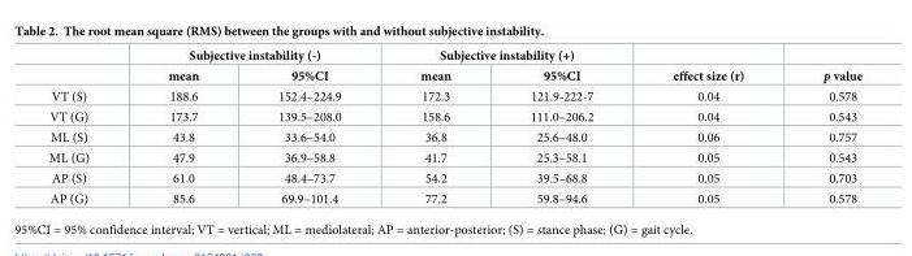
<table><thead><tr><td rowspan="2"></td><td colspan="2">Subjective instability (-)</td><td colspan="2">Subjective instability (+)</td><td rowspan="2">effect size (r)</td><td rowspan="2">p value</td></tr><tr><td>mean</td><td>95%CI</td><td>mean</td><td>95%CI</td></tr></thead><tbody><tr><td>VT (S)</td><td>188.6</td><td>152.4–224.9</td><td>172.3</td><td>121.9-222-7</td><td>0.04</td><td>0.578</td></tr><tr><td>VT (G)</td><td>173.7</td><td>139.5–208.0</td><td>158.6</td><td>111.0–206.2</td><td>0.04</td><td>0.543</td></tr><tr><td>ML (S)</td><td>43.8</td><td>33.6–54.0</td><td>36.8</td><td>25.6–48.0</td><td>0.06</td><td>0.757</td></tr><tr><td>ML (G)</td><td>47.9</td><td>36.9–58.8</td><td>41.7</td><td>25.3–58.1</td><td>0.05</td><td>0.543</td></tr><tr><td>AP (S)</td><td>61.0</td><td>48.4–73.7</td><td>54.2</td><td>39.5–68.8</td><td>0.05</td><td>0.703</td></tr><tr><td>AP (G)</td><td>85.6</td><td>69.9–101.4</td><td>77.2</td><td>59.8–94.6</td><td>0.05</td><td>0.578</td></tr></tbody></table>